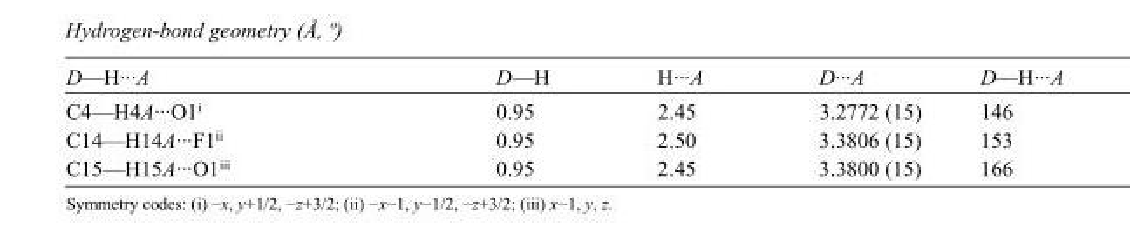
<table><tbody><tr><td>D—H···A</td><td>D—H</td><td>H···A</td><td>D···A</td><td>D—H···A</td></tr><tr><td>C4—H4A···O1<sup>i</sup></td><td>0.95</td><td>2.45</td><td>3.2772 (15)</td><td>146</td></tr><tr><td>C14—H14A···F1<sup>ii</sup></td><td>0.95</td><td>2.50</td><td>3.3806 (15)</td><td>153</td></tr><tr><td>C15—H15A···O1<sup>iii</sup></td><td>0.95</td><td>2.45</td><td>3.3800 (15)</td><td>166</td></tr></tbody></table>